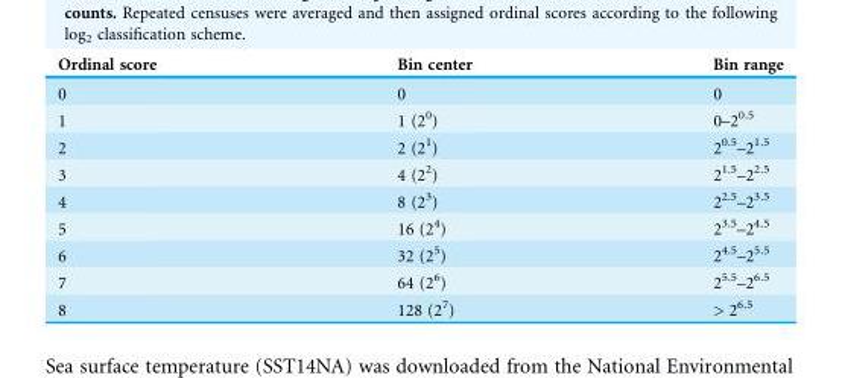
<table><thead><tr><td>Ordinal score</td><td>Bin center</td><td>Bin range</td></tr></thead><tbody><tr><td>0</td><td>0</td><td>0</td></tr><tr><td>1</td><td>1 (2<sup>0</sup>)</td><td>0–2<sup>0.5</sup></td></tr><tr><td>2</td><td>2 (2<sup>1</sup>)</td><td>2<sup>0.5</sup>–2<sup>1.5</sup></td></tr><tr><td>3</td><td>4 (2<sup>2</sup>)</td><td>2<sup>1.5</sup>–2<sup>2.5</sup></td></tr><tr><td>4</td><td>8 (2<sup>3</sup>)</td><td>2<sup>2.5</sup>–2<sup>3.5</sup></td></tr><tr><td>5</td><td>16 (2<sup>4</sup>)</td><td>2<sup>3.5</sup>–2<sup>4.5</sup></td></tr><tr><td>6</td><td>32 (2<sup>5</sup>)</td><td>2<sup>4.5</sup>–2<sup>5.5</sup></td></tr><tr><td>7</td><td>64 (2<sup>6</sup>)</td><td>2<sup>5.5</sup>–2<sup>6.5</sup></td></tr><tr><td>8</td><td>128 (2<sup>7</sup>)</td><td>&gt; 2<sup>6.5</sup></td></tr></tbody></table>